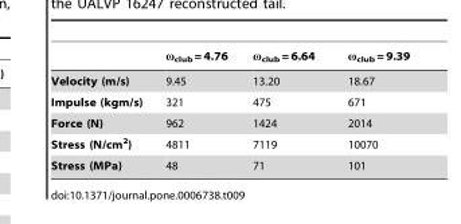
<table><thead><tr><td></td><td>ω<sub>club</sub> = 4.76</td><td>ω<sub>club</sub> = 6.64</td><td>ω<sub>club</sub> = 9.39</td></tr></thead><tbody><tr><td>Velocity (m/s)</td><td>9.45</td><td>13.20</td><td>18.67</td></tr><tr><td>Impulse (kgm/s)</td><td>321</td><td>475</td><td>671</td></tr><tr><td>Force (N)</td><td>962</td><td>1424</td><td>2014</td></tr><tr><td>Stress (N/cm<sup>2</sup>)</td><td>4811</td><td>7119</td><td>10070</td></tr><tr><td>Stress (MPa)</td><td>48</td><td>71</td><td>101</td></tr></tbody></table>